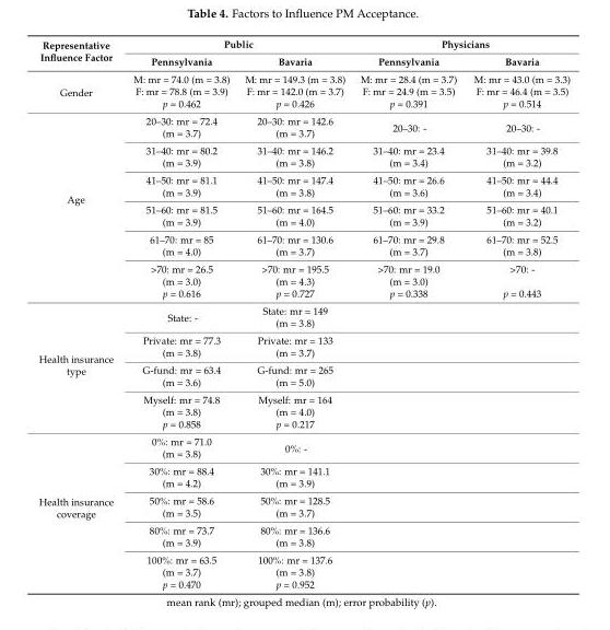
<table><thead><tr><td rowspan="2">Representative Influence Factor</td><td colspan="2">Public</td><td colspan="2">Physicians</td></tr><tr><td>Pennsylvania</td><td>Bavaria</td><td>Pennsylvania</td><td>Bavaria</td></tr></thead><tbody><tr><td rowspan="3">Gender</td><td>M: mr = 74.0 (m = 3.8)</td><td>M: mr = 149.3 (m = 3.8)</td><td>M: mr = 28.4 (m = 3.7)</td><td>M: mr = 43.0 (m = 3.3)</td></tr><tr><td>F: mr = 78.8 (m = 3.9)</td><td>F: mr = 142.0 (m = 3.7)</td><td>F: mr = 24.9 (m = 3.5)</td><td>F: mr = 46.4 (m = 3.5)</td></tr><tr><td>p = 0.462</td><td>p = 0.426</td><td>p = 0.391</td><td>p = 0.514</td></tr><tr><td rowspan="13">Age</td><td>20–30: mr = 72.4</td><td>20–30: mr = 142.6</td><td rowspan="2">20–30: -</td><td rowspan="2">20–30: -</td></tr><tr><td>(m = 3.7)</td><td>(m = 3.7)</td></tr><tr><td>31–40: mr = 80.2</td><td>31–40: mr = 146.2</td><td>31–40: mr = 23.4</td><td>31–40: mr = 39.8</td></tr><tr><td>(m = 3.9)</td><td>(m = 3.8)</td><td>(m = 3.4)</td><td>(m = 3.2)</td></tr><tr><td>41–50: mr = 81.1</td><td>41–50: mr = 147.4</td><td>41–50: mr = 26.6</td><td>41–50: mr = 44.4</td></tr><tr><td>(m = 3.9)</td><td>(m = 3.8)</td><td>(m = 3.6)</td><td>(m = 3.4)</td></tr><tr><td>51–60: mr = 81.5</td><td>51–60: mr = 164.5</td><td>51–60: mr = 33.2</td><td>51–60: mr = 40.1</td></tr><tr><td>(m = 3.9)</td><td>(m = 4.0)</td><td>(m = 3.9)</td><td>(m = 3.2)</td></tr><tr><td>61–70: mr = 85</td><td>61–70: mr = 130.6</td><td>61–70: mr = 29.8</td><td>61–70: mr = 52.5</td></tr><tr><td>(m = 4.0)</td><td>(m = 3.7)</td><td>(m = 3.7)</td><td>(m = 3.8)</td></tr><tr><td>&gt;70: mr = 26.5</td><td>&gt;70: mr = 195.5</td><td>&gt;70: mr = 19.0</td><td>&gt;70: -</td></tr><tr><td>(m = 3.0)</td><td>(m = 4.3)</td><td>(m = 3.0)</td><td></td></tr><tr><td>p = 0.616</td><td>p = 0.727</td><td>p = 0.338</td><td>p = 0.443</td></tr><tr><td rowspan="9">Health insurance type</td><td rowspan="2">State: -</td><td>State: mr = 149</td><td rowspan="2"></td><td rowspan="2"></td></tr><tr><td>(m = 3.8)</td></tr><tr><td>Private: mr = 77.3</td><td>Private: mr = 133</td><td rowspan="2"></td><td rowspan="2"></td></tr><tr><td>(m = 3.8)</td><td>(m = 3.7)</td></tr><tr><td>G-fund: mr = 63.4</td><td>G-fund: mr = 265</td><td rowspan="2"></td><td rowspan="2"></td></tr><tr><td>(m = 3.6)</td><td>(m = 5.0)</td></tr><tr><td>Myself: mr = 74.8</td><td>Myself: mr = 164</td><td rowspan="3"></td><td rowspan="3"></td></tr><tr><td>(m = 3.8)</td><td>(m = 4.0)</td></tr><tr><td>p = 0.858</td><td>p = 0.217</td></tr><tr><td rowspan="11">Health insurance coverage</td><td>0%: mr = 71.0</td><td rowspan="2">0%: -</td><td rowspan="2"></td><td rowspan="2"></td></tr><tr><td>(m = 3.8)</td></tr><tr><td>30%: mr = 88.4</td><td>30%: mr = 141.1</td><td rowspan="2"></td><td rowspan="2"></td></tr><tr><td>(m = 4.2)</td><td>(m = 3.9)</td></tr><tr><td>50%: mr = 58.6</td><td>50%: mr = 128.5</td><td rowspan="2"></td><td rowspan="2"></td></tr><tr><td>(m = 3.5)</td><td>(m = 3.7)</td></tr><tr><td>80%: mr = 73.7</td><td>80%: mr = 136.6</td><td rowspan="2"></td><td rowspan="2"></td></tr><tr><td>(m = 3.9)</td><td>(m = 3.8)</td></tr><tr><td>100%: mr = 63.5</td><td>100%: mr = 137.6</td><td rowspan="3"></td><td rowspan="3"></td></tr><tr><td>(m = 3.7)</td><td>(m = 3.8)</td></tr><tr><td>p = 0.470</td><td>p = 0.952</td></tr></tbody></table>